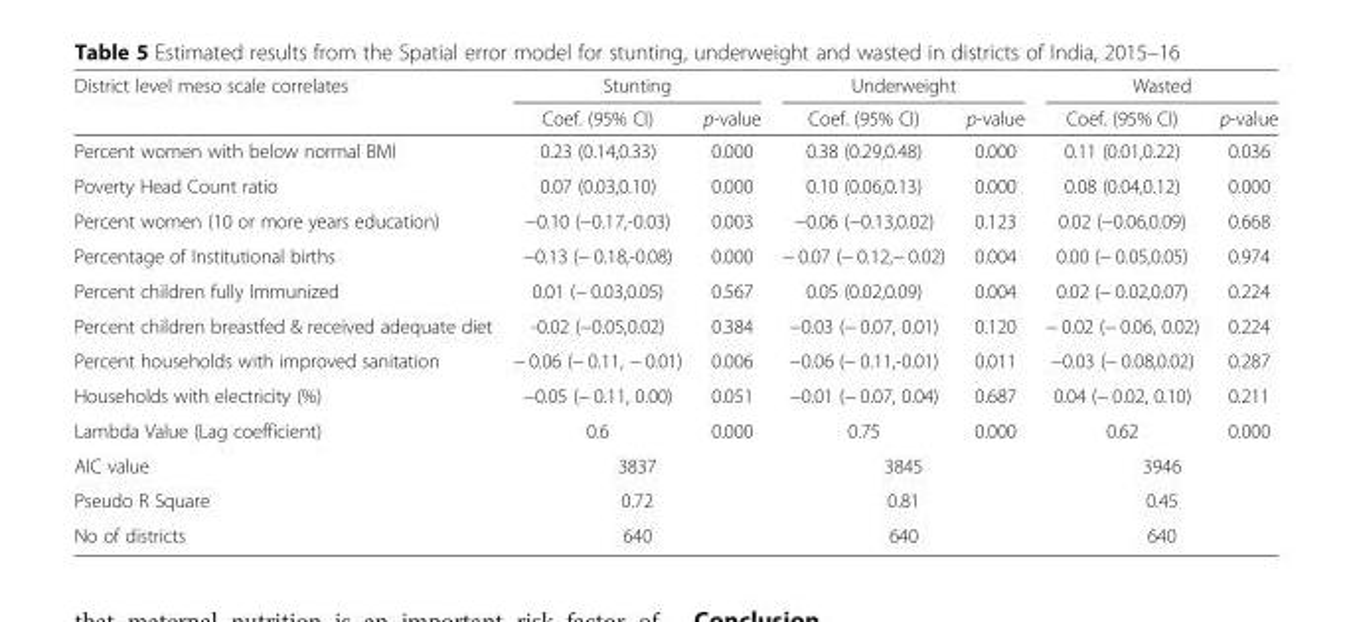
<table><thead><tr><td rowspan="2">District level meso scale correlates</td><td colspan="2">Stunting</td><td colspan="2">Underweight</td><td colspan="2">Wasted</td></tr><tr><td>Coef. (95% CI)</td><td>p-value</td><td>Coef. (95% CI)</td><td>p-value</td><td>Coef. (95% CI)</td><td>p-value</td></tr></thead><tbody><tr><td>Percent women with below normal BMI</td><td>0.23 (0.14,0.33)</td><td>0.000</td><td>0.38 (0.29,0.48)</td><td>0.000</td><td>0.11 (0.01,0.22)</td><td>0.036</td></tr><tr><td>Poverty Head Count ratio</td><td>0.07 (0.03,0.10)</td><td>0.000</td><td>0.10 (0.06,0.13)</td><td>0.000</td><td>0.08 (0.04,0.12)</td><td>0.000</td></tr><tr><td>Percent women (10 or more years education)</td><td>−0.10 (−0.17,-0.03)</td><td>0.003</td><td>−0.06 (−0.13,0.02)</td><td>0.123</td><td>0.02 (−0.06,0.09)</td><td>0.668</td></tr><tr><td>Percentage of Institutional births</td><td>−0.13 (− 0.18,-0.08)</td><td>0.000</td><td>− 0.07 (− 0.12,− 0.02)</td><td>0.004</td><td>0.00 (− 0.05,0.05)</td><td>0.974</td></tr><tr><td>Percent children fully Immunized</td><td>0.01 (− 0.03,0.05)</td><td>0.567</td><td>0.05 (0.02,0.09)</td><td>0.004</td><td>0.02 (− 0.02,0.07)</td><td>0.224</td></tr><tr><td>Percent children breastfed &amp; received adequate diet</td><td>-0.02 (−0.05,0.02)</td><td>0.384</td><td>−0.03 (− 0.07, 0.01)</td><td>0.120</td><td>− 0.02 (− 0.06, 0.02)</td><td>0.224</td></tr><tr><td>Percent households with improved sanitation</td><td>− 0.06 (− 0.11, − 0.01)</td><td>0.006</td><td>−0.06 (− 0.11,-0.01)</td><td>0.011</td><td>−0.03 (− 0.08,0.02)</td><td>0.287</td></tr><tr><td>Households with electricity (%)</td><td>−0.05 (− 0.11, 0.00)</td><td>0.051</td><td>−0.01 (− 0.07, 0.04)</td><td>0.687</td><td>0.04 (− 0.02, 0.10)</td><td>0.211</td></tr><tr><td>Lambda Value (Lag coefficient)</td><td>0.6</td><td>0.000</td><td>0.75</td><td>0.000</td><td>0.62</td><td>0.000</td></tr><tr><td>AIC value</td><td colspan="2">3837</td><td colspan="2">3845</td><td colspan="2">3946</td></tr><tr><td>Pseudo R Square</td><td colspan="2">0.72</td><td colspan="2">0.81</td><td colspan="2">0.45</td></tr><tr><td>No of districts</td><td colspan="2">640</td><td colspan="2">640</td><td colspan="2">640</td></tr></tbody></table>